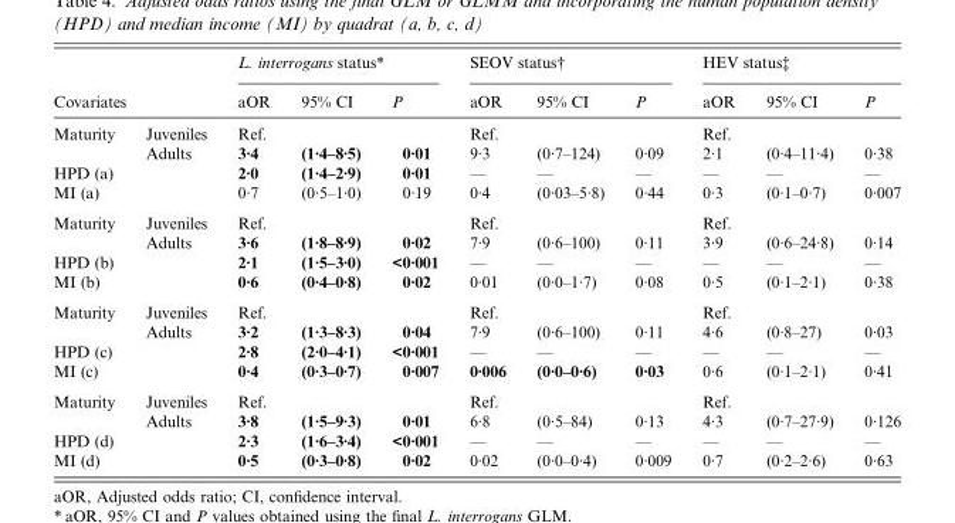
<table><thead><tr><td rowspan="2" colspan="2">Covariates</td><td colspan="3">L. interrogans status*</td><td colspan="3">SEOV status†</td><td colspan="3">HEV status‡</td></tr><tr><td rowspan="2">aOR Ref.</td><td rowspan="2">95% CI</td><td rowspan="2">P</td><td rowspan="2">aOR Ref.</td><td rowspan="2">95% CI</td><td rowspan="2">P</td><td rowspan="2">aOR Ref.</td><td rowspan="2">95% CI</td><td rowspan="2">P</td></tr><tr><td>Maturity</td><td>Juveniles</td></tr></thead><tbody><tr><td></td><td>Adults</td><td>3·4</td><td>(1·4–8·5)</td><td>0·01</td><td>9·3</td><td>(0·7–124)</td><td>0·09</td><td>2·1</td><td>(0·4–11·4)</td><td>0·38</td></tr><tr><td>HPD (a)</td><td></td><td>2·0</td><td>(1·4–2·9)</td><td>0·01</td><td>—</td><td>—</td><td>—</td><td>—</td><td>—</td><td>—</td></tr><tr><td>MI (a)</td><td></td><td>0·7</td><td>(0·5–1·0)</td><td>0·19</td><td>0·4</td><td>(0·03–5·8)</td><td>0·44</td><td>0·3</td><td>(0·1–0·7)</td><td>0·007</td></tr><tr><td rowspan="2">Maturity</td><td>Juveniles</td><td>Ref.</td><td></td><td></td><td>Ref.</td><td></td><td></td><td>Ref.</td><td></td><td></td></tr><tr><td>Adults</td><td>3·6</td><td>(1·8–8·9)</td><td>0·02</td><td>7·9</td><td>(0·6–100)</td><td>0·11</td><td>3·9</td><td>(0·6–24·8)</td><td>0·14</td></tr><tr><td>HPD (b)</td><td></td><td>2·1</td><td>(1·5–3·0)</td><td>&lt;0·001</td><td>—</td><td>—</td><td>—</td><td>—</td><td>—</td><td>—</td></tr><tr><td>MI (b)</td><td></td><td>0·6</td><td>(0·4–0·8)</td><td>0·02</td><td>0·01</td><td>(0·0–1·7)</td><td>0·08</td><td>0·5</td><td>(0·1–2·1)</td><td>0·38</td></tr><tr><td rowspan="2">Maturity</td><td>Juveniles</td><td>Ref.</td><td></td><td></td><td>Ref.</td><td></td><td></td><td>Ref.</td><td></td><td></td></tr><tr><td>Adults</td><td>3·2</td><td>(1·3–8·3)</td><td>0·04</td><td>7·9</td><td>(0·6–100)</td><td>0·11</td><td>4·6</td><td>(0·8–27)</td><td>0·03</td></tr><tr><td>HPD (c)</td><td></td><td>2·8</td><td>(2·0–4·1)</td><td>&lt;0·001</td><td>—</td><td>—</td><td>—</td><td>—</td><td>—</td><td>—</td></tr><tr><td>MI (c)</td><td></td><td>0·4</td><td>(0·3–0·7)</td><td>0·007</td><td>0·006</td><td>(0·0–0·6)</td><td>0·03</td><td>0·6</td><td>(0·1–2·1)</td><td>0·41</td></tr><tr><td rowspan="2">Maturity</td><td>Juveniles</td><td>Ref.</td><td></td><td></td><td>Ref.</td><td></td><td></td><td>Ref.</td><td></td><td></td></tr><tr><td>Adults</td><td>3·8</td><td>(1·5–9·3)</td><td>0·01</td><td>6·8</td><td>(0·5–84)</td><td>0·13</td><td>4·3</td><td>(0·7–27·9)</td><td>0·126</td></tr><tr><td>HPD (d)</td><td></td><td>2·3</td><td>(1·6–3·4)</td><td>&lt;0·001</td><td>—</td><td>—</td><td>—</td><td>—</td><td>—</td><td>—</td></tr><tr><td>MI (d)</td><td></td><td>0·5</td><td>(0·3–0·8)</td><td>0·02</td><td>0·02</td><td>(0·0–0·4)</td><td>0·009</td><td>0·7</td><td>(0·2–2·6)</td><td>0·63</td></tr></tbody></table>